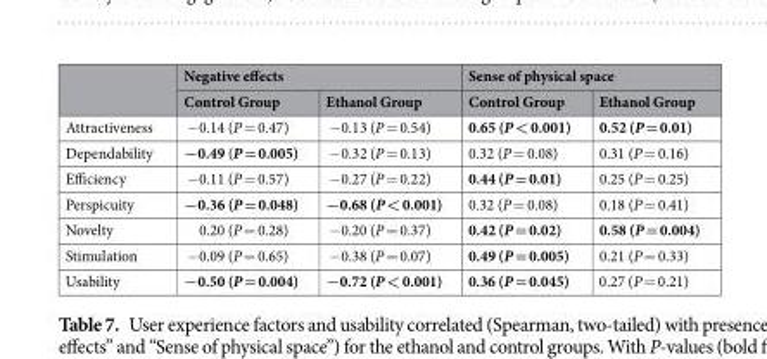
<table><thead><tr><td rowspan="2"></td><td colspan="2">Negative effects</td><td colspan="2">Sense of physical space</td></tr><tr><td>Control Group</td><td>Ethanol Group</td><td>Control Group</td><td>Ethanol Group</td></tr></thead><tbody><tr><td>Attractiveness</td><td>−0.14 (P = 0.47)</td><td>−0.13 (P = 0.54)</td><td>0.65 (P &lt; 0.001)</td><td>0.52 (P = 0.01)</td></tr><tr><td>Dependability</td><td>−0.49 (P = 0.005)</td><td>−0.32 (P = 0.13)</td><td>0.32 (P = 0.08)</td><td>0.31 (P = 0.16)</td></tr><tr><td>Efficiency</td><td>−0.11 (P = 0.57)</td><td>−0.27 (P = 0.22)</td><td>0.44 (P = 0.01)</td><td>0.25 (P = 0.25)</td></tr><tr><td>Perspicuity</td><td>−0.36 (P = 0.048)</td><td>−0.68 (P &lt; 0.001)</td><td>0.32 (P = 0.08)</td><td>0.18 (P = 0.41)</td></tr><tr><td>Novelty</td><td>0.20 (P = 0.28)</td><td>−0.20 (P = 0.37)</td><td>0.42 (P = 0.02)</td><td>0.58 (P = 0.004)</td></tr><tr><td>Stimulation</td><td>−0.09 (P = 0.65)</td><td>−0.38 (P = 0.07)</td><td>0.49 (P = 0.005)</td><td>0.21 (P = 0.33)</td></tr><tr><td>Usability</td><td>−0.50 (P = 0.004)</td><td>−0.72 (P &lt; 0.001)</td><td>0.36 (P = 0.045)</td><td>0.27 (P = 0.21)</td></tr></tbody></table>